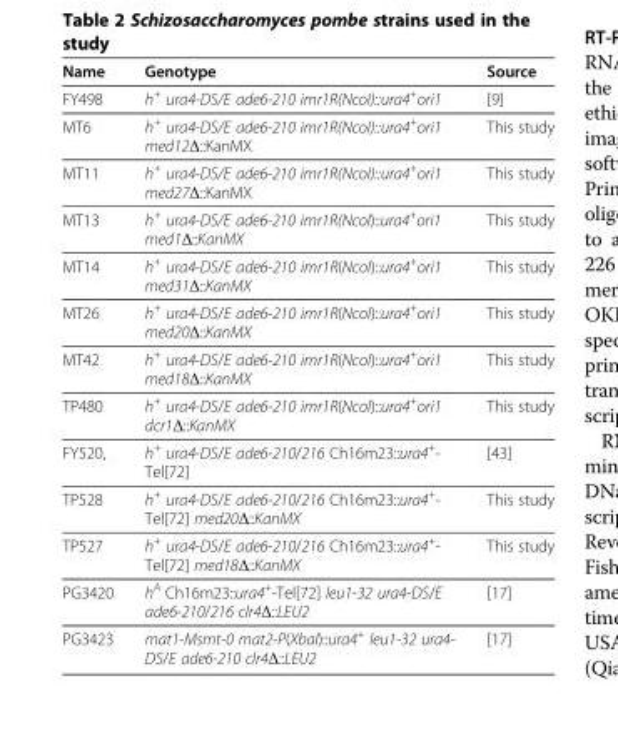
<table><thead><tr><td>Name</td><td>Genotype</td><td>Source</td></tr></thead><tbody><tr><td>FY498</td><td>h<sup>+</sup> ura4-DS/E ade6-210 imr1R(NcoI)::ura4<sup>+</sup>ori1</td><td>[9]</td></tr><tr><td>MT6</td><td>h<sup>+</sup> ura4-DS/E ade6-210 imr1R(NcoI)::ura4<sup>+</sup>ori1 med12Δ::KanMX</td><td>This study</td></tr><tr><td>MT11</td><td>h<sup>+</sup> ura4-DS/E ade6-210 imr1R(NcoI)::ura4<sup>+</sup>ori1 med27Δ::KanMX</td><td>This study</td></tr><tr><td>MT13</td><td>h<sup>+</sup> ura4-DS/E ade6-210 imr1R(NcoI)::ura4<sup>+</sup>ori1 med1Δ::KanMX</td><td>This study</td></tr><tr><td>MT14</td><td>h<sup>+</sup> ura4-DS/E ade6-210 imr1R(NcoI)::ura4<sup>+</sup>ori1 med31Δ::KanMX</td><td>This study</td></tr><tr><td>MT26</td><td>h<sup>+</sup> ura4-DS/E ade6-210 imr1R(NcoI)::ura4<sup>+</sup>ori1 med20Δ::KanMX</td><td>This study</td></tr><tr><td>MT42</td><td>h<sup>+</sup> ura4-DS/E ade6-210 imr1R(NcoI)::ura4<sup>+</sup>ori1 med18Δ::KanMX</td><td>This study</td></tr><tr><td>TP480</td><td>h<sup>+</sup> ura4-DS/E ade6-210 imr1R(NcoI)::ura4<sup>+</sup>ori1 dcr1Δ::KanMX</td><td>This study</td></tr><tr><td>FY520,</td><td>h<sup>+</sup> ura4-DS/E ade6-210/216 Ch16m23::ura4<sup>+</sup>- Tel[72]</td><td>[43]</td></tr><tr><td>TP528</td><td>h<sup>+</sup> ura4-DS/E ade6-210/216 Ch16m23::ura4<sup>+</sup>- Tel[72] med20Δ::KanMX</td><td>This study</td></tr><tr><td>TP527</td><td>h<sup>+</sup> ura4-DS/E ade6-210/216 Ch16m23::ura4<sup>+</sup>- Tel[72] med18Δ::KanMX</td><td>This study</td></tr><tr><td>PG3420</td><td>h<sup>A</sup> Ch16m23::ura4<sup>+</sup>-Tel[72] leu1-32 ura4-DS/E ade6-210/216 clr4Δ::LEU2</td><td>[17]</td></tr><tr><td>PG3423</td><td>mat1-Msmt-0 mat2-P(XbaI)::ura4<sup>+</sup> leu1-32 ura4- DS/E ade6-210 clr4Δ::LEU2</td><td>[17]</td></tr></tbody></table>